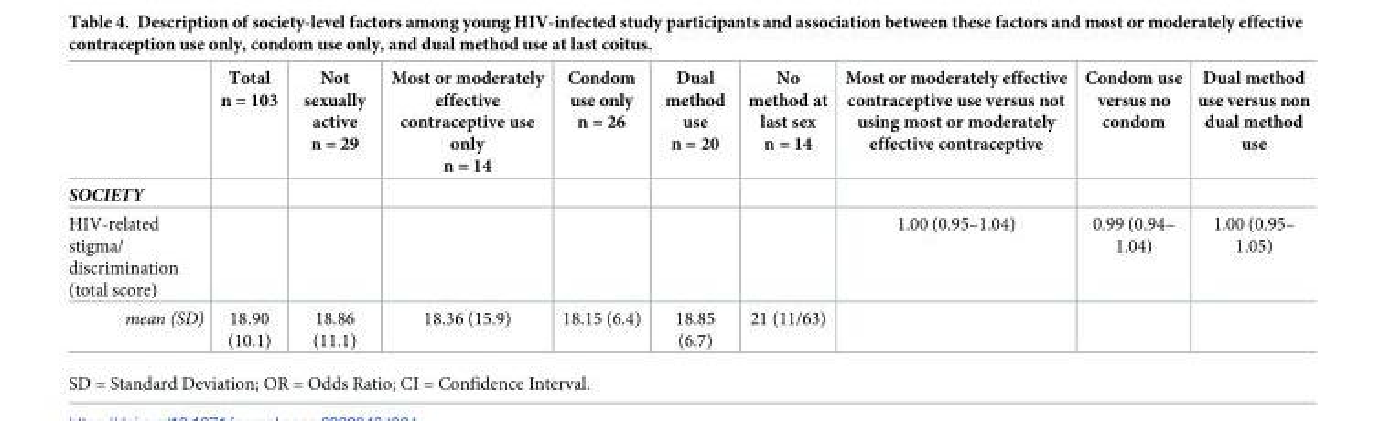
<table><thead><tr><td></td><td>Total n = 103</td><td>Not sexually active n = 29</td><td>Most or moderately effective contraceptive use only n = 14</td><td>Condom use only n = 26</td><td>Dual method use n = 20</td><td>No method at last sex n = 14</td><td>Most or moderately effective contraceptive use versus not using most or moderately effective contraceptive</td><td>Condom use versus no condom</td><td>Dual method use versus non dual method use</td></tr></thead><tbody><tr><td colspan="10">SOCIETY</td></tr><tr><td>HIV-related stigma/ discrimination (total score)</td><td></td><td></td><td></td><td></td><td></td><td></td><td>1.00 (0.95–1.04)</td><td>0.99 (0.94– 1.04)</td><td>1.00 (0.95– 1.05)</td></tr><tr><td>mean (SD)</td><td>18.90 (10.1)</td><td>18.86 (11.1)</td><td>18.36 (15.9)</td><td>18.15 (6.4)</td><td>18.85 (6.7)</td><td>21 (11/63)</td><td></td><td></td><td></td></tr></tbody></table>